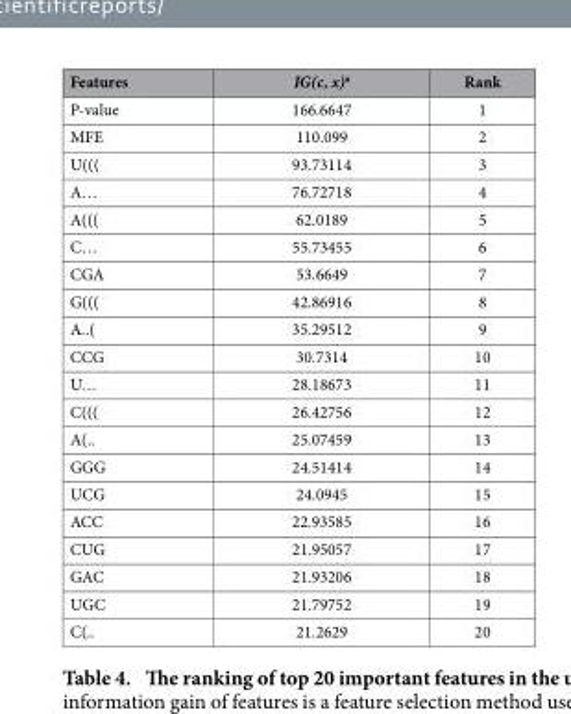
<table><thead><tr><td>Features</td><td>IG(c, x)<sup>a</sup></td><td>Rank</td></tr></thead><tbody><tr><td>P-value</td><td>166.6647</td><td>1</td></tr><tr><td>MFE</td><td>110.099</td><td>2</td></tr><tr><td>U(((</td><td>93.73114</td><td>3</td></tr><tr><td>A…</td><td>76.72718</td><td>4</td></tr><tr><td>A(((</td><td>62.0189</td><td>5</td></tr><tr><td>C…</td><td>55.73455</td><td>6</td></tr><tr><td>CGA</td><td>53.6649</td><td>7</td></tr><tr><td>G(((</td><td>42.86916</td><td>8</td></tr><tr><td>A..(</td><td>35.29512</td><td>9</td></tr><tr><td>CCG</td><td>30.7314</td><td>10</td></tr><tr><td>U…</td><td>28.18673</td><td>11</td></tr><tr><td>C(((</td><td>26.42756</td><td>12</td></tr><tr><td>A(..</td><td>25.07459</td><td>13</td></tr><tr><td>GGG</td><td>24.51414</td><td>14</td></tr><tr><td>UCG</td><td>24.0945</td><td>15</td></tr><tr><td>ACC</td><td>22.93585</td><td>16</td></tr><tr><td>CUG</td><td>21.95057</td><td>17</td></tr><tr><td>GAC</td><td>21.93206</td><td>18</td></tr><tr><td>UGC</td><td>21.79752</td><td>19</td></tr><tr><td>C(..</td><td>21.2629</td><td>20</td></tr></tbody></table>